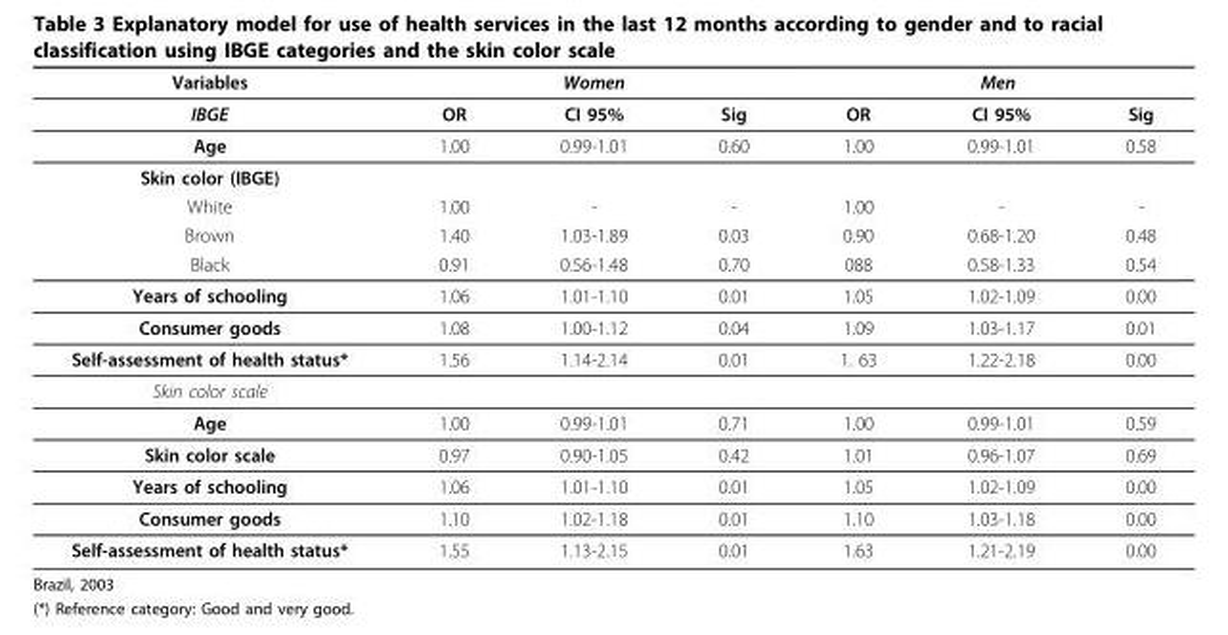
<table><thead><tr><td rowspan="2">Variables IBGE</td><td colspan="3">Women</td><td colspan="3">Men</td></tr><tr><td>OR</td><td>CI 95%</td><td>Sig</td><td>OR</td><td>CI 95%</td><td>Sig</td></tr></thead><tbody><tr><td>Age</td><td>1.00</td><td>0.99-1.01</td><td>0.60</td><td>1.00</td><td>0.99-1.01</td><td>0.58</td></tr><tr><td colspan="7">Skin color (IBGE)</td></tr><tr><td>White</td><td>1.00</td><td>-</td><td>-</td><td>1.00</td><td>-</td><td>-</td></tr><tr><td>Brown</td><td>1.40</td><td>1.03-1.89</td><td>0.03</td><td>0.90</td><td>0.68-1.20</td><td>0.48</td></tr><tr><td>Black</td><td>0.91</td><td>0.56-1.48</td><td>0.70</td><td>088</td><td>0.58-1.33</td><td>0.54</td></tr><tr><td>Years of schooling</td><td>1.06</td><td>1.01-1.10</td><td>0.01</td><td>1.05</td><td>1.02-1.09</td><td>0.00</td></tr><tr><td>Consumer goods</td><td>1.08</td><td>1.00-1.12</td><td>0.04</td><td>1.09</td><td>1.03-1.17</td><td>0.01</td></tr><tr><td>Self-assessment of health status*</td><td>1.56</td><td>1.14-2.14</td><td>0.01</td><td>1. 63</td><td>1.22-2.18</td><td>0.00</td></tr><tr><td colspan="7">Skin color scale</td></tr><tr><td>Age</td><td>1.00</td><td>0.99-1.01</td><td>0.71</td><td>1.00</td><td>0.99-1.01</td><td>0.59</td></tr><tr><td>Skin color scale</td><td>0.97</td><td>0.90-1.05</td><td>0.42</td><td>1.01</td><td>0.96-1.07</td><td>0.69</td></tr><tr><td>Years of schooling</td><td>1.06</td><td>1.01-1.10</td><td>0.01</td><td>1.05</td><td>1.02-1.09</td><td>0.00</td></tr><tr><td>Consumer goods</td><td>1.10</td><td>1.02-1.18</td><td>0.01</td><td>1.10</td><td>1.03-1.18</td><td>0.00</td></tr><tr><td>Self-assessment of health status*</td><td>1.55</td><td>1.13-2.15</td><td>0.01</td><td>1.63</td><td>1.21-2.19</td><td>0.00</td></tr></tbody></table>